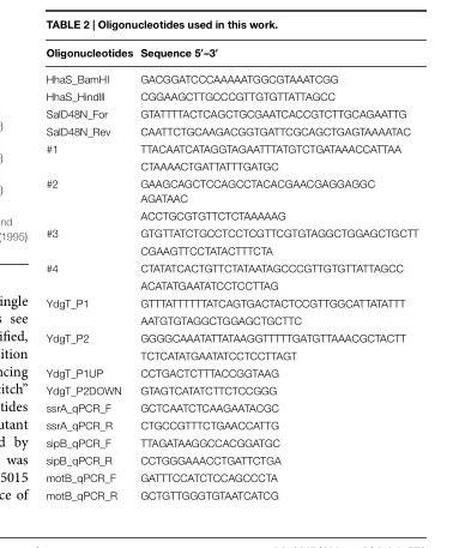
<table><thead><tr><td>Oligonucleotides</td><td>Sequence 5′–3′</td></tr></thead><tbody><tr><td>HhaS_BamHI</td><td>GACGGATCCCAAAAATGGCGTAAATCGG</td></tr><tr><td>HhaS_Hindlll</td><td>CGGAAGCTTGCCCGTTGTGTTATTAGCC</td></tr><tr><td>SalD48N_For</td><td>GTATTTTACTCAGCTGCGAATCACCGTCTTGCAGAATTG</td></tr><tr><td>SalD48N_Rev</td><td>CAATTCTGCAAGACGGTGATTCGCAGCTGAGTAAAATAC</td></tr><tr><td rowspan="2">#1</td><td>TTACAATCATAGGTAGAATTTATGTCTGATAAACCATTAA</td></tr><tr><td>CTAAAACTGATTATTTGATGC</td></tr><tr><td rowspan="2">#2</td><td>GAAGCAGCTCCAGCCTACACGAACGAGGAGGC AGATAAC</td></tr><tr><td>ACCTGCGTGTTCTCTAAAAAG</td></tr><tr><td rowspan="2">#3</td><td>GTGTTATCTGCCTCCTCGTTCGTGTAGGCTGGAGCTGCTT</td></tr><tr><td>CGAAGTTCCTATACTTTCTA</td></tr><tr><td rowspan="2">#4</td><td>CTATATCACTGTTCTATAATAGCCCGTTGTGTTATTAGCC</td></tr><tr><td>ACATATGAATATCCTCCTTAG</td></tr><tr><td rowspan="2">YdgT_P1</td><td>GTTTATTTTTTATCAGTGACTACTCCGTTGGCATTATATTT</td></tr><tr><td>AATGTGTAGGCTGGAGCTGCTTC</td></tr><tr><td rowspan="2">YdgT_P2</td><td>GGGGCAAATATTATAAGGTTTTTGATGTTAAACGCTACTT</td></tr><tr><td>TCTCATATGAATATCCTCCTTAGT</td></tr><tr><td>YdgT_P1UP</td><td>CCTGACTCTTTACCGGTAAG</td></tr><tr><td>YdgT_P2DOWN</td><td>GTAGTCATATCTTCTCCGGG</td></tr><tr><td>ssrA_qPCR_F</td><td>GCTCAATCTCAAGAATACGC</td></tr><tr><td>ssrA_qPCR_R</td><td>CTGCCGTTTCTGAACCATTG</td></tr><tr><td>sipB_qPCR_F</td><td>TTAGATAAGGCCACGGATGC</td></tr><tr><td>sipB_qPCR_R</td><td>CCTGGGAAACCTGATTCTGA</td></tr><tr><td>motB_qPCR_F</td><td>GATTTCCATCTCCAGCCCTA</td></tr><tr><td>motB_qPCR_R</td><td>GCTGTTGGGTGTAATCATCG</td></tr></tbody></table>